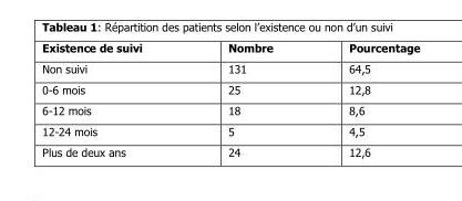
<table><thead><tr><td>Existence de suivi</td><td>Nombre</td><td>Pourcentage</td></tr></thead><tbody><tr><td>Non suivi</td><td>131</td><td>64,5</td></tr><tr><td>0-6 mois</td><td>25</td><td>12,8</td></tr><tr><td>6-12 mois</td><td>18</td><td>8,6</td></tr><tr><td>12-24 mois</td><td>5</td><td>4,5</td></tr><tr><td>Plus de deux ans</td><td>24</td><td>12,6</td></tr></tbody></table>